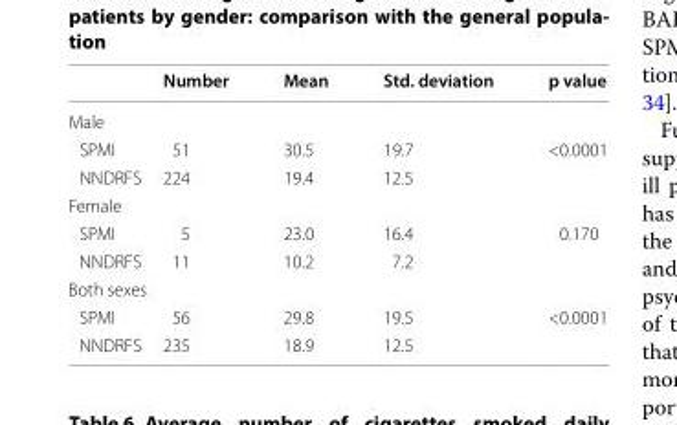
<table><thead><tr><td></td><td>Number</td><td>Mean</td><td>Std. deviation</td><td>p value</td></tr></thead><tbody><tr><td colspan="5">Male</td></tr><tr><td>SPMI</td><td>51</td><td>30.5</td><td>19.7</td><td>&lt;0.0001</td></tr><tr><td>NNDRFS</td><td>224</td><td>19.4</td><td>12.5</td><td></td></tr><tr><td colspan="5">Female</td></tr><tr><td>SPMI</td><td>5</td><td>23.0</td><td>16.4</td><td>0.170</td></tr><tr><td>NNDRFS</td><td>11</td><td>10.2</td><td>7.2</td><td></td></tr><tr><td colspan="5">Both sexes</td></tr><tr><td>SPMI</td><td>56</td><td>29.8</td><td>19.5</td><td>&lt;0.0001</td></tr><tr><td>NNDRFS</td><td>235</td><td>18.9</td><td>12.5</td><td></td></tr></tbody></table>